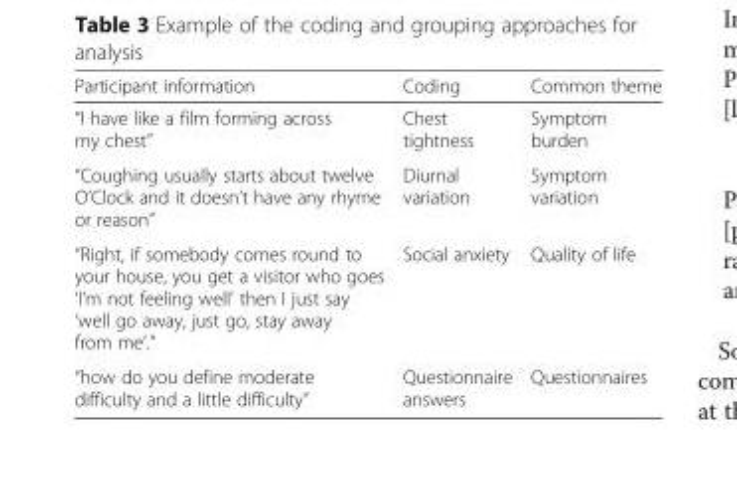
<table><thead><tr><td>Participant information</td><td>Coding</td><td>Common theme</td></tr></thead><tbody><tr><td>“I have like a film forming across my chest”</td><td>Chest tightness</td><td>Symptom burden</td></tr><tr><td>“Coughing usually starts about twelve O’Clock and it doesn’t have any rhyme or reason”</td><td>Diurnal variation</td><td>Symptom variation</td></tr><tr><td>“Right, if somebody comes round to your house, you get a visitor who goes ‘I’m not feeling well’ then I just say ‘well go away, just go, stay away from me’.”</td><td>Social anxiety</td><td>Quality of life</td></tr><tr><td>“how do you define moderate difficulty and a little difficulty”</td><td>Questionnaire answers</td><td>Questionnaires</td></tr></tbody></table>